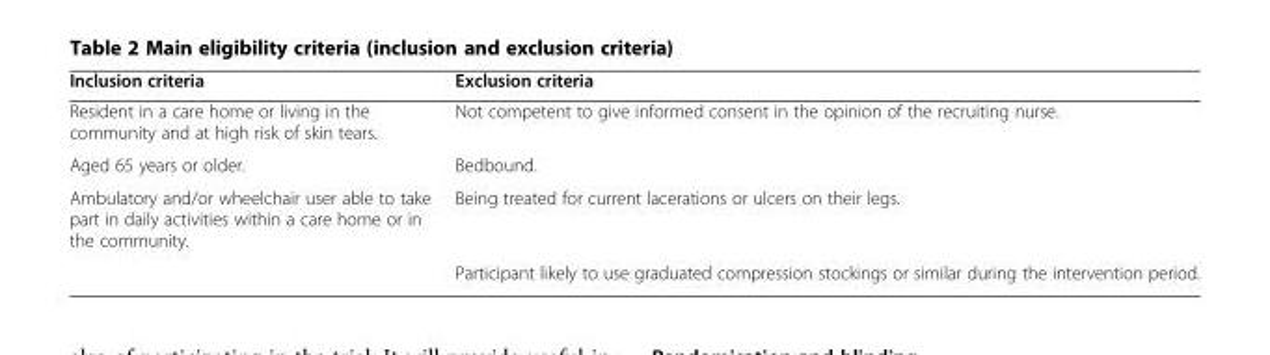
<table><thead><tr><td>Inclusion criteria</td><td>Exclusion criteria</td></tr></thead><tbody><tr><td>Resident in a care home or living in the community and at high risk of skin tears.</td><td>Not competent to give informed consent in the opinion of the recruiting nurse.</td></tr><tr><td>Aged 65 years or older.</td><td>Bedbound.</td></tr><tr><td rowspan="2">Ambulatory and/or wheelchair user able to take part in daily activities within a care home or in the community.</td><td>Being treated for current lacerations or ulcers on their legs.</td></tr><tr><td>Participant likely to use graduated compression stockings or similar during the intervention period.</td></tr></tbody></table>